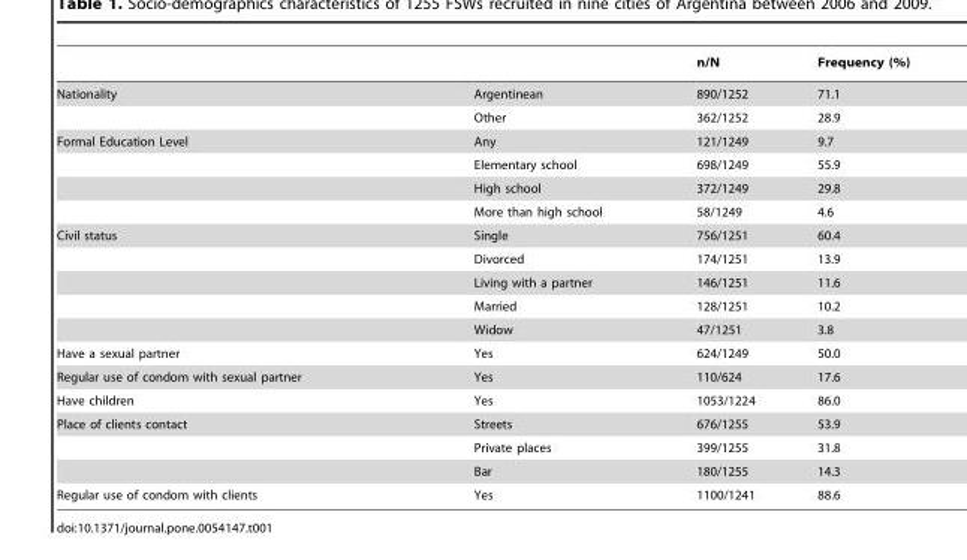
<table><thead><tr><td></td><td></td><td>n/N</td><td>Frequency (%)</td></tr></thead><tbody><tr><td rowspan="2">Nationality</td><td>Argentinean</td><td>890/1252</td><td>71.1</td></tr><tr><td>Other</td><td>362/1252</td><td>28.9</td></tr><tr><td rowspan="4">Formal Education Level</td><td>Any</td><td>121/1249</td><td>9.7</td></tr><tr><td>Elementary school</td><td>698/1249</td><td>55.9</td></tr><tr><td>High school</td><td>372/1249</td><td>29.8</td></tr><tr><td>More than high school</td><td>58/1249</td><td>4.6</td></tr><tr><td rowspan="5">Civil status</td><td>Single</td><td>756/1251</td><td>60.4</td></tr><tr><td>Divorced</td><td>174/1251</td><td>13.9</td></tr><tr><td>Living with a partner</td><td>146/1251</td><td>11.6</td></tr><tr><td>Married</td><td>128/1251</td><td>10.2</td></tr><tr><td>Widow</td><td>47/1251</td><td>3.8</td></tr><tr><td>Have a sexual partner</td><td>Yes</td><td>624/1249</td><td>50.0</td></tr><tr><td>Regular use of condom with sexual partner</td><td>Yes</td><td>110/624</td><td>17.6</td></tr><tr><td>Have children</td><td>Yes</td><td>1053/1224</td><td>86.0</td></tr><tr><td rowspan="3">Place of clients contact</td><td>Streets</td><td>676/1255</td><td>53.9</td></tr><tr><td>Private places</td><td>399/1255</td><td>31.8</td></tr><tr><td>Bar</td><td>180/1255</td><td>14.3</td></tr><tr><td>Regular use of condom with clients</td><td>Yes</td><td>1100/1241</td><td>88.6</td></tr></tbody></table>